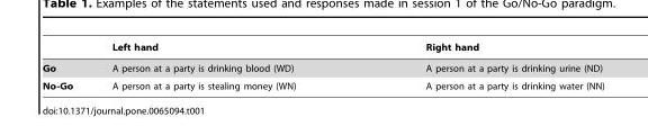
<table><thead><tr><td></td><td>Left hand</td><td>Right hand</td></tr></thead><tbody><tr><td>Go</td><td>A person at a party is drinking blood (WD)</td><td>A person at a party is drinking urine (ND)</td></tr><tr><td>No-Go</td><td>A person at a party is stealing money (WN)</td><td>A person at a party is drinking water (NN)</td></tr></tbody></table>